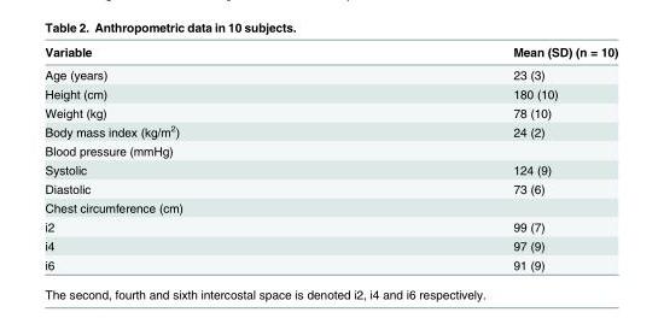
<table><thead><tr><td>Variable</td><td>Mean (SD) (n = 10)</td></tr></thead><tbody><tr><td>Age (years)</td><td>23 (3)</td></tr><tr><td>Height (cm)</td><td>180 (10)</td></tr><tr><td>Weight (kg)</td><td>78 (10)</td></tr><tr><td>Body mass index (kg/m<sup>2</sup>)</td><td>24 (2)</td></tr><tr><td colspan="2">Blood pressure (mmHg)</td></tr><tr><td>Systolic</td><td>124 (9)</td></tr><tr><td>Diastolic</td><td>73 (6)</td></tr><tr><td colspan="2">Chest circumference (cm)</td></tr><tr><td>i2</td><td>99 (7)</td></tr><tr><td>i4</td><td>97 (9)</td></tr><tr><td>i6</td><td>91 (9)</td></tr></tbody></table>